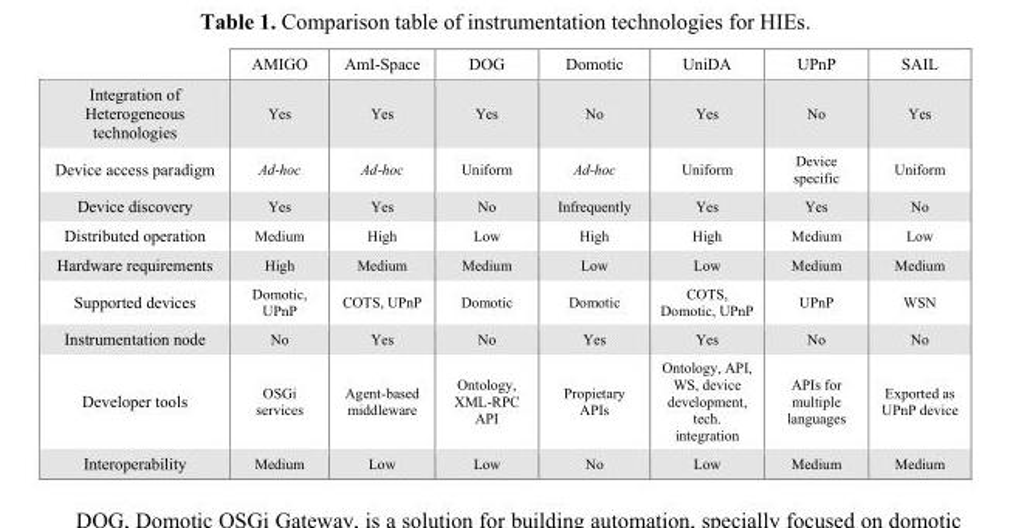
<table><thead><tr><td></td><td>AMIGO</td><td>AmI-Space</td><td>DOG</td><td>Domotic</td><td>UniDA</td><td>UPnP</td><td>SAIL</td></tr></thead><tbody><tr><td>Integration of Heterogeneous technologies</td><td>Yes</td><td>Yes</td><td>Yes</td><td>No</td><td>Yes</td><td>No</td><td>Yes</td></tr><tr><td>Device access paradigm</td><td>Ad-hoc</td><td>Ad-hoc</td><td>Uniform</td><td>Ad-hoc</td><td>Uniform</td><td>Device specific</td><td>Uniform</td></tr><tr><td>Device discovery</td><td>Yes</td><td>Yes</td><td>No</td><td>Infrequently</td><td>Yes</td><td>Yes</td><td>No</td></tr><tr><td>Distributed operation</td><td>Medium</td><td>High</td><td>Low</td><td>High</td><td>High</td><td>Medium</td><td>Low</td></tr><tr><td>Hardware requirements</td><td>High</td><td>Medium</td><td>Medium</td><td>Low</td><td>Low</td><td>Medium</td><td>Medium</td></tr><tr><td>Supported devices</td><td>Domotic, UPnP</td><td>COTS, UPnP</td><td>Domotic</td><td>Domotic</td><td>COTS, Domotic, UPnP</td><td>UPnP</td><td>WSN</td></tr><tr><td>Instrumentation node</td><td>No</td><td>Yes</td><td>No</td><td>Yes</td><td>Yes</td><td>No</td><td>No</td></tr><tr><td>Developer tools</td><td>OSGi services</td><td>Agent-based middleware</td><td>Ontology, XML-RPC API</td><td>Propietary APIs</td><td>Ontology, API, WS, device development, tech. integration</td><td>APIs for multiple languages</td><td>Exported as UPnP device</td></tr><tr><td>Interoperability</td><td>Medium</td><td>Low</td><td>Low</td><td>No</td><td>Low</td><td>Medium</td><td>Medium</td></tr></tbody></table>